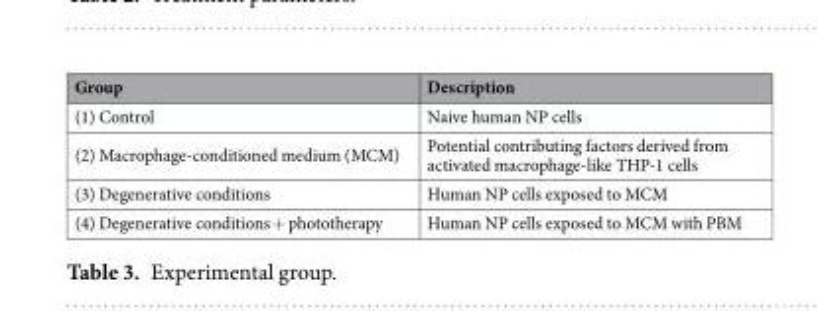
<table><thead><tr><td>Group</td><td>Description</td></tr></thead><tbody><tr><td>(1) Control</td><td>Naive human NP cells</td></tr><tr><td>(2) Macrophage-conditioned medium (MCM)</td><td>Potential contributing factors derived from activated macrophage-like THP-1 cells</td></tr><tr><td>(3) Degenerative conditions</td><td>Human NP cells exposed to MCM</td></tr><tr><td>(4) Degenerative conditions + phototherapy</td><td>Human NP cells exposed to MCM with PBM</td></tr></tbody></table>